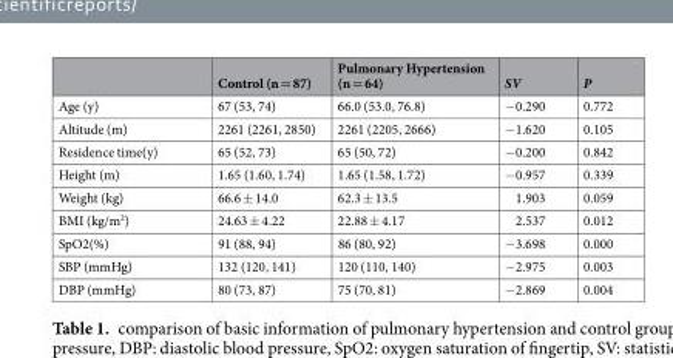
<table><thead><tr><td></td><td>Control (n = 87)</td><td>Pulmonary Hypertension (n = 64)</td><td>SV</td><td>P</td></tr></thead><tbody><tr><td>Age (y)</td><td>67 (53, 74)</td><td>66.0 (53.0, 76.8)</td><td>−0.290</td><td>0.772</td></tr><tr><td>Altitude (m)</td><td>2261 (2261, 2850)</td><td>2261 (2205, 2666)</td><td>−1.620</td><td>0.105</td></tr><tr><td>Residence time(y)</td><td>65 (52, 73)</td><td>65 (50, 72)</td><td>−0.200</td><td>0.842</td></tr><tr><td>Height (m)</td><td>1.65 (1.60, 1.74)</td><td>1.65 (1.58, 1.72)</td><td>−0.957</td><td>0.339</td></tr><tr><td>Weight (kg)</td><td>66.6 ± 14.0</td><td>62.3 ± 13.5</td><td>1.903</td><td>0.059</td></tr><tr><td>BMI (kg/m<sup>2</sup>)</td><td>24.63 ± 4.22</td><td>22.88 ± 4.17</td><td>2.537</td><td>0.012</td></tr><tr><td>SpO2(%)</td><td>91 (88, 94)</td><td>86 (80, 92)</td><td>−3.698</td><td>0.000</td></tr><tr><td>SBP (mmHg)</td><td>132 (120, 141)</td><td>120 (110, 140)</td><td>−2.975</td><td>0.003</td></tr><tr><td>DBP (mmHg)</td><td>80 (73, 87)</td><td>75 (70, 81)</td><td>−2.869</td><td>0.004</td></tr></tbody></table>